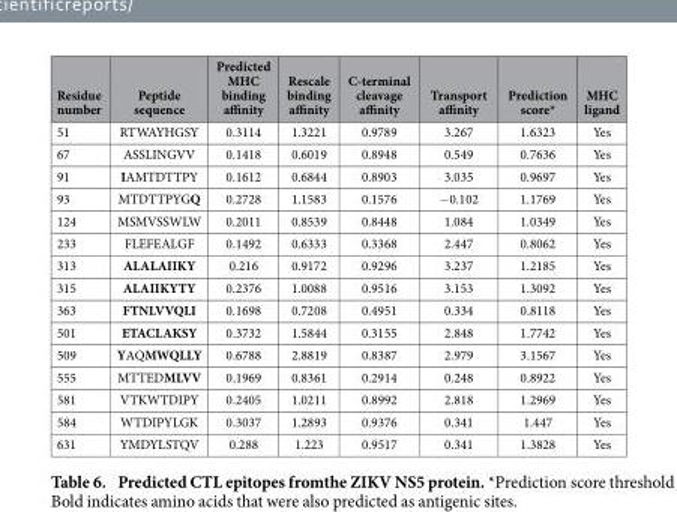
<table><thead><tr><td>Residue number</td><td>Peptide sequence</td><td>Predicted MHC binding affinity</td><td>Rescale binding affinity</td><td>C-terminal cleavage affinity</td><td>Transport affinity</td><td>Prediction score*</td><td>MHC ligand</td></tr></thead><tbody><tr><td>51</td><td>RTWAYHGSY</td><td>0.3114</td><td>1.3221</td><td>0.9789</td><td>3.267</td><td>1.6323</td><td>Yes</td></tr><tr><td>67</td><td>ASSLINGVV</td><td>0.1418</td><td>0.6019</td><td>0.8948</td><td>0.549</td><td>0.7636</td><td>Yes</td></tr><tr><td>91</td><td>IAMTDTTPY</td><td>0.1612</td><td>0.6844</td><td>0.8903</td><td>3.035</td><td>0.9697</td><td>Yes</td></tr><tr><td>93</td><td>MTDTTPYGQ</td><td>0.2728</td><td>1.1583</td><td>0.1576</td><td>− 0.102</td><td>1.1769</td><td>Yes</td></tr><tr><td>124</td><td>MSMVSSWLW</td><td>0.2011</td><td>0.8539</td><td>0.8448</td><td>1.084</td><td>1.0349</td><td>Yes</td></tr><tr><td>233</td><td>FLEFEALGF</td><td>0.1492</td><td>0.6333</td><td>0.3368</td><td>2.447</td><td>0.8062</td><td>Yes</td></tr><tr><td>313</td><td>ALALAIIKY</td><td>0.216</td><td>0.9172</td><td>0.9296</td><td>3.237</td><td>1.2185</td><td>Yes</td></tr><tr><td>315</td><td>ALAIIKYTY</td><td>0.2376</td><td>1.0088</td><td>0.9516</td><td>3.153</td><td>1.3092</td><td>Yes</td></tr><tr><td>363</td><td>FTNLVVQLI</td><td>0.1698</td><td>0.7208</td><td>0.4951</td><td>0.334</td><td>0.8118</td><td>Yes</td></tr><tr><td>501</td><td>ETACLAKSY</td><td>0.3732</td><td>1.5844</td><td>0.3155</td><td>2.848</td><td>1.7742</td><td>Yes</td></tr><tr><td>509</td><td>YAQMWQLLY</td><td>0.6788</td><td>2.8819</td><td>0.8387</td><td>2.979</td><td>3.1567</td><td>Yes</td></tr><tr><td>555</td><td>MTTEDMLVV</td><td>0.1969</td><td>0.8361</td><td>0.2914</td><td>0.248</td><td>0.8922</td><td>Yes</td></tr><tr><td>581</td><td>VTKWTDIPY</td><td>0.2405</td><td>1.0211</td><td>0.8992</td><td>2.818</td><td>1.2969</td><td>Yes</td></tr><tr><td>584</td><td>WTDIPYLGK</td><td>0.3037</td><td>1.2893</td><td>0.9376</td><td>0.341</td><td>1.447</td><td>Yes</td></tr><tr><td>631</td><td>YMDYLSTQV</td><td>0.288</td><td>1.223</td><td>0.9517</td><td>0.341</td><td>1.3828</td><td>Yes</td></tr></tbody></table>